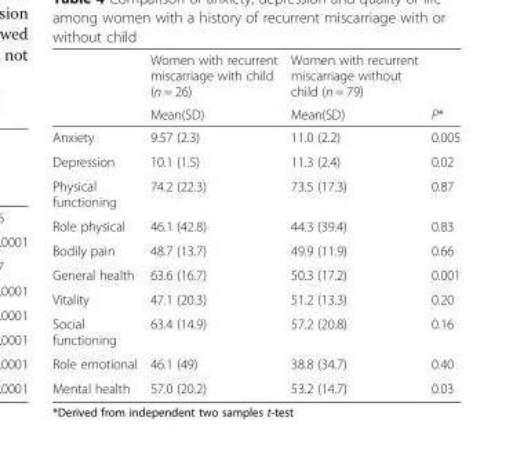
<table><thead><tr><td rowspan="2"></td><td rowspan="2">Women with recurrent miscarriage with child (n = 26) Mean(SD)</td><td rowspan="2">Women with recurrent miscarriage without child (n = 79) Mean(SD)</td><td rowspan="2">P*</td></tr><tr></tr></thead><tbody><tr><td>Anxiety</td><td>9.57 (2.3)</td><td>11.0 (2.2)</td><td>0.005</td></tr><tr><td>Depression</td><td>10.1 (1.5)</td><td>11.3 (2.4)</td><td>0.02</td></tr><tr><td>Physical functioning</td><td>74.2 (22.3)</td><td>73.5 (17.3)</td><td>0.87</td></tr><tr><td>Role physical</td><td>46.1 (42.8)</td><td>44.3 (39.4)</td><td>0.83</td></tr><tr><td>Bodily pain</td><td>48.7 (13.7)</td><td>49.9 (11.9)</td><td>0.66</td></tr><tr><td>General health</td><td>63.6 (16.7)</td><td>50.3 (17.2)</td><td>0.001</td></tr><tr><td>Vitality</td><td>47.1 (20.3)</td><td>51.2 (13.3)</td><td>0.20</td></tr><tr><td>Social functioning</td><td>63.4 (14.9)</td><td>57.2 (20.8)</td><td>0.16</td></tr><tr><td>Role emotional</td><td>46.1 (49)</td><td>38.8 (34.7)</td><td>0.40</td></tr><tr><td>Mental health</td><td>57.0 (20.2)</td><td>53.2 (14.7)</td><td>0.03</td></tr></tbody></table>